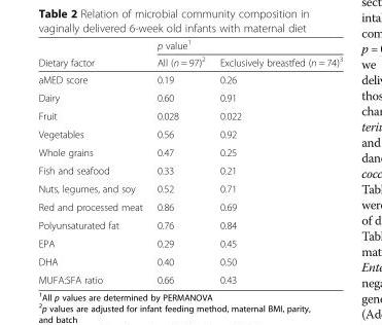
<table><thead><tr><td rowspan="2">Dietary factor</td><td colspan="2">p value<sup>1</sup></td></tr><tr><td>All (n = 97)<sup>2</sup></td><td>Exclusively breastfed (n = 74)<sup>3</sup></td></tr></thead><tbody><tr><td>aMED score</td><td>0.19</td><td>0.26</td></tr><tr><td>Dairy</td><td>0.60</td><td>0.91</td></tr><tr><td>Fruit</td><td>0.028</td><td>0.022</td></tr><tr><td>Vegetables</td><td>0.56</td><td>0.92</td></tr><tr><td>Whole grains</td><td>0.47</td><td>0.25</td></tr><tr><td>Fish and seafood</td><td>0.33</td><td>0.21</td></tr><tr><td>Nuts, legumes, and soy</td><td>0.52</td><td>0.71</td></tr><tr><td>Red and processed meat</td><td>0.86</td><td>0.69</td></tr><tr><td>Polyunsaturated fat</td><td>0.76</td><td>0.84</td></tr><tr><td>EPA</td><td>0.29</td><td>0.45</td></tr><tr><td>DHA</td><td>0.40</td><td>0.50</td></tr><tr><td>MUFA:SFA ratio</td><td>0.66</td><td>0.43</td></tr></tbody></table>